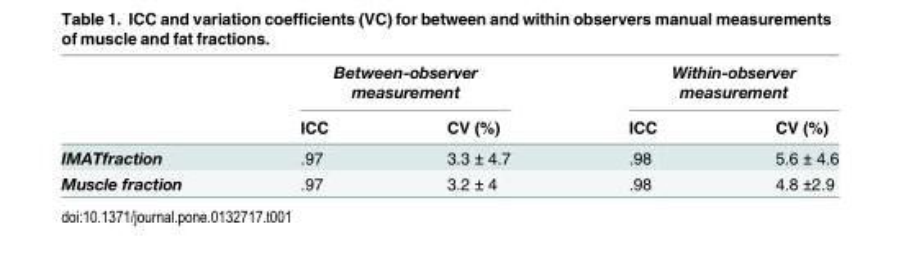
<table><thead><tr><td rowspan="2"></td><td colspan="2">Between-observer measurement</td><td colspan="2">Within-observer measurement</td></tr><tr><td>ICC</td><td>CV (%)</td><td>ICC</td><td>CV (%)</td></tr></thead><tbody><tr><td>IMATfraction</td><td>.97</td><td>3.3 ± 4.7</td><td>.98</td><td>5.6 ± 4.6</td></tr><tr><td>Muscle fraction</td><td>.97</td><td>3.2 ± 4</td><td>.98</td><td>4.8 ±2.9</td></tr></tbody></table>